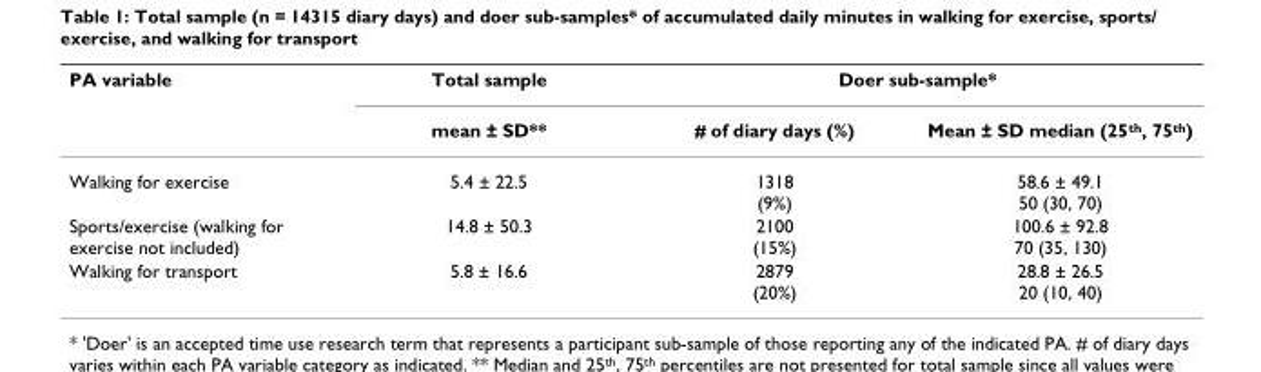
<table><thead><tr><td rowspan="2">PA variable</td><td rowspan="2">Total sample mean ± SD**</td><td colspan="2">Doer sub-sample*</td></tr><tr><td># of diary days (%)</td><td>Mean ± SD median (25<sup>th</sup>, 75<sup>th</sup>)</td></tr></thead><tbody><tr><td>Walking for exercise</td><td>5.4 ± 22.5</td><td>1318 (9%)</td><td>58.6 ± 49.1 50 (30, 70)</td></tr><tr><td>Sports/exercise (walking for exercise not included)</td><td>14.8 ± 50.3</td><td>2100 (15%)</td><td>100.6 ± 92.8 70 (35, 130)</td></tr><tr><td>Walking for transport</td><td>5.8 ± 16.6</td><td>2879 (20%)</td><td>28.8 ± 26.5 20 (10, 40)</td></tr></tbody></table>